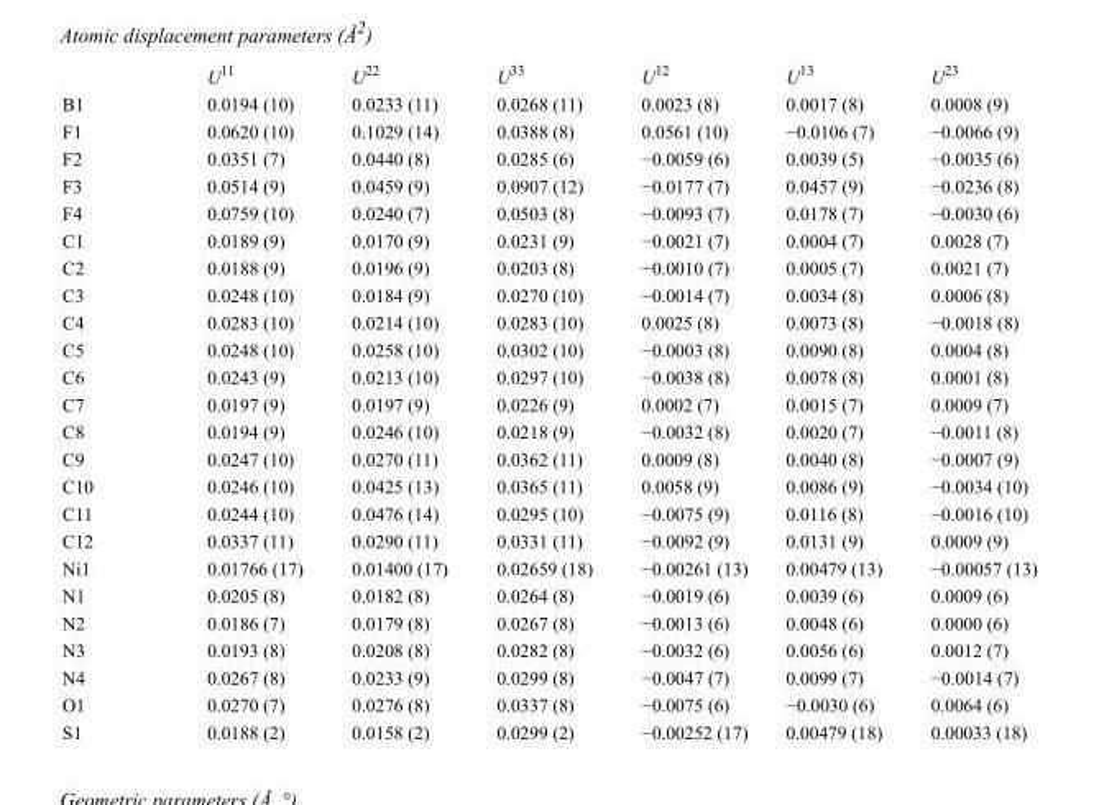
<table><thead><tr><td></td><td>U<sup>11</sup></td><td>U<sup>22</sup></td><td>U<sup>33</sup></td><td>U<sup>12</sup></td><td>U<sup>13</sup></td><td>U<sup>23</sup></td></tr></thead><tbody><tr><td>B1</td><td>0.0194 (10)</td><td>0.0233 (11)</td><td>0.0268 (11)</td><td>0.0023 (8)</td><td>0.0017 (8)</td><td>0.0008 (9)</td></tr><tr><td>F1</td><td>0.0620 (10)</td><td>0.1029 (14)</td><td>0.0388 (8)</td><td>0.0561 (10)</td><td>−0.0106 (7)</td><td>−0.0066 (9)</td></tr><tr><td>F2</td><td>0.0351 (7)</td><td>0.0440 (8)</td><td>0.0285 (6)</td><td>−0.0059 (6)</td><td>0.0039 (5)</td><td>−0.0035 (6)</td></tr><tr><td>F3</td><td>0.0514 (9)</td><td>0.0459 (9)</td><td>0.0907 (12)</td><td>−0.0177 (7)</td><td>0.0457 (9)</td><td>−0.0236 (8)</td></tr><tr><td>F4</td><td>0.0759 (10)</td><td>0.0240 (7)</td><td>0.0503 (8)</td><td>−0.0093 (7)</td><td>0.0178 (7)</td><td>−0.0030 (6)</td></tr><tr><td>C1</td><td>0.0189 (9)</td><td>0.0170 (9)</td><td>0.0231 (9)</td><td>−0.0021 (7)</td><td>0.0004 (7)</td><td>0.0028 (7)</td></tr><tr><td>C2</td><td>0.0188 (9)</td><td>0.0196 (9)</td><td>0.0203 (8)</td><td>−0.0010 (7)</td><td>0.0005 (7)</td><td>0.0021 (7)</td></tr><tr><td>C3</td><td>0.0248 (10)</td><td>0.0184 (9)</td><td>0.0270 (10)</td><td>−0.0014 (7)</td><td>0.0034 (8)</td><td>0.0006 (8)</td></tr><tr><td>C4</td><td>0.0283 (10)</td><td>0.0214 (10)</td><td>0.0283 (10)</td><td>0.0025 (8)</td><td>0.0073 (8)</td><td>−0.0018 (8)</td></tr><tr><td>C5</td><td>0.0248 (10)</td><td>0.0258 (10)</td><td>0.0302 (10)</td><td>−0.0003 (8)</td><td>0.0090 (8)</td><td>0.0004 (8)</td></tr><tr><td>C6</td><td>0.0243 (9)</td><td>0.0213 (10)</td><td>0.0297 (10)</td><td>−0.0038 (8)</td><td>0.0078 (8)</td><td>0.0001 (8)</td></tr><tr><td>C7</td><td>0.0197 (9)</td><td>0.0197 (9)</td><td>0.0226 (9)</td><td>0.0002 (7)</td><td>0.0015 (7)</td><td>0.0009 (7)</td></tr><tr><td>C8</td><td>0.0194 (9)</td><td>0.0246 (10)</td><td>0.0218 (9)</td><td>−0.0032 (8)</td><td>0.0020 (7)</td><td>−0.0011 (8)</td></tr><tr><td>C9</td><td>0.0247 (10)</td><td>0.0270 (11)</td><td>0.0362 (11)</td><td>0.0009 (8)</td><td>0.0040 (8)</td><td>−0.0007 (9)</td></tr><tr><td>C10</td><td>0.0246 (10)</td><td>0.0425 (13)</td><td>0.0365 (11)</td><td>0.0058 (9)</td><td>0.0086 (9)</td><td>−0.0034 (10)</td></tr><tr><td>C11</td><td>0.0244 (10)</td><td>0.0476 (14)</td><td>0.0295 (10)</td><td>−0.0075 (9)</td><td>0.0116 (8)</td><td>−0.0016 (10)</td></tr><tr><td>C12</td><td>0.0337 (11)</td><td>0.0290 (11)</td><td>0.0331 (11)</td><td>−0.0092 (9)</td><td>0.0131 (9)</td><td>0.0009 (9)</td></tr><tr><td>Ni1</td><td>0.01766 (17)</td><td>0.01400 (17)</td><td>0.02659 (18)</td><td>−0.00261 (13)</td><td>0.00479 (13)</td><td>−0.00057 (13)</td></tr><tr><td>N1</td><td>0.0205 (8)</td><td>0.0182 (8)</td><td>0.0264 (8)</td><td>−0.0019 (6)</td><td>0.0039 (6)</td><td>0.0009 (6)</td></tr><tr><td>N2</td><td>0.0186 (7)</td><td>0.0179 (8)</td><td>0.0267 (8)</td><td>−0.0013 (6)</td><td>0.0048 (6)</td><td>0.0000 (6)</td></tr><tr><td>N3</td><td>0.0193 (8)</td><td>0.0208 (8)</td><td>0.0282 (8)</td><td>−0.0032 (6)</td><td>0.0056 (6)</td><td>0.0012 (7)</td></tr><tr><td>N4</td><td>0.0267 (8)</td><td>0.0233 (9)</td><td>0.0299 (8)</td><td>−0.0047 (7)</td><td>0.0099 (7)</td><td>−0.0014 (7)</td></tr><tr><td>O1</td><td>0.0270 (7)</td><td>0.0276 (8)</td><td>0.0337 (8)</td><td>−0.0075 (6)</td><td>−0.0030 (6)</td><td>0.0064 (6)</td></tr><tr><td>S1</td><td>0.0188 (2)</td><td>0.0158 (2)</td><td>0.0299 (2)</td><td>−0.00252 (17)</td><td>0.00479 (18)</td><td>0.00033 (18)</td></tr></tbody></table>